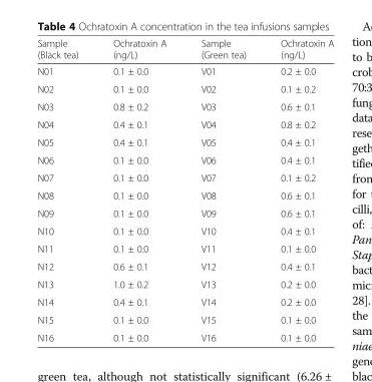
<table><thead><tr><td>Sample (Black tea)</td><td>Ochratoxin A (ng/L)</td><td>Sample (Green tea)</td><td>Ochratoxin A (ng/L)</td></tr></thead><tbody><tr><td>N01</td><td>0.1 ± 0.0</td><td>V01</td><td>0.2 ± 0.0</td></tr><tr><td>N02</td><td>0.1 ± 0.0</td><td>V02</td><td>0.1 ± 0.2</td></tr><tr><td>N03</td><td>0.8 ± 0.2</td><td>V03</td><td>0.6 ± 0.1</td></tr><tr><td>N04</td><td>0.4 ± 0.1</td><td>V04</td><td>0.8 ± 0.2</td></tr><tr><td>N05</td><td>0.4 ± 0.1</td><td>V05</td><td>0.4 ± 0.1</td></tr><tr><td>N06</td><td>0.1 ± 0.0</td><td>V06</td><td>0.4 ± 0.1</td></tr><tr><td>N07</td><td>0.1 ± 0.0</td><td>V07</td><td>0.1 ± 0.2</td></tr><tr><td>N08</td><td>0.1 ± 0.0</td><td>V08</td><td>0.6 ± 0.1</td></tr><tr><td>N09</td><td>0.1 ± 0.0</td><td>V09</td><td>0.6 ± 0.1</td></tr><tr><td>N10</td><td>0.1 ± 0.0</td><td>V10</td><td>0.4 ± 0.1</td></tr><tr><td>N11</td><td>0.1 ± 0.0</td><td>V11</td><td>0.1 ± 0.0</td></tr><tr><td>N12</td><td>0.6 ± 0.1</td><td>V12</td><td>0.4 ± 0.1</td></tr><tr><td>N13</td><td>1.0 ± 0.2</td><td>V13</td><td>0.2 ± 0.0</td></tr><tr><td>N14</td><td>0.4 ± 0.1</td><td>V14</td><td>0.2 ± 0.0</td></tr><tr><td>N15</td><td>0.1 ± 0.0</td><td>V15</td><td>0.1 ± 0.0</td></tr><tr><td>N16</td><td>0.1 ± 0.0</td><td>V16</td><td>0.1 ± 0.0</td></tr></tbody></table>